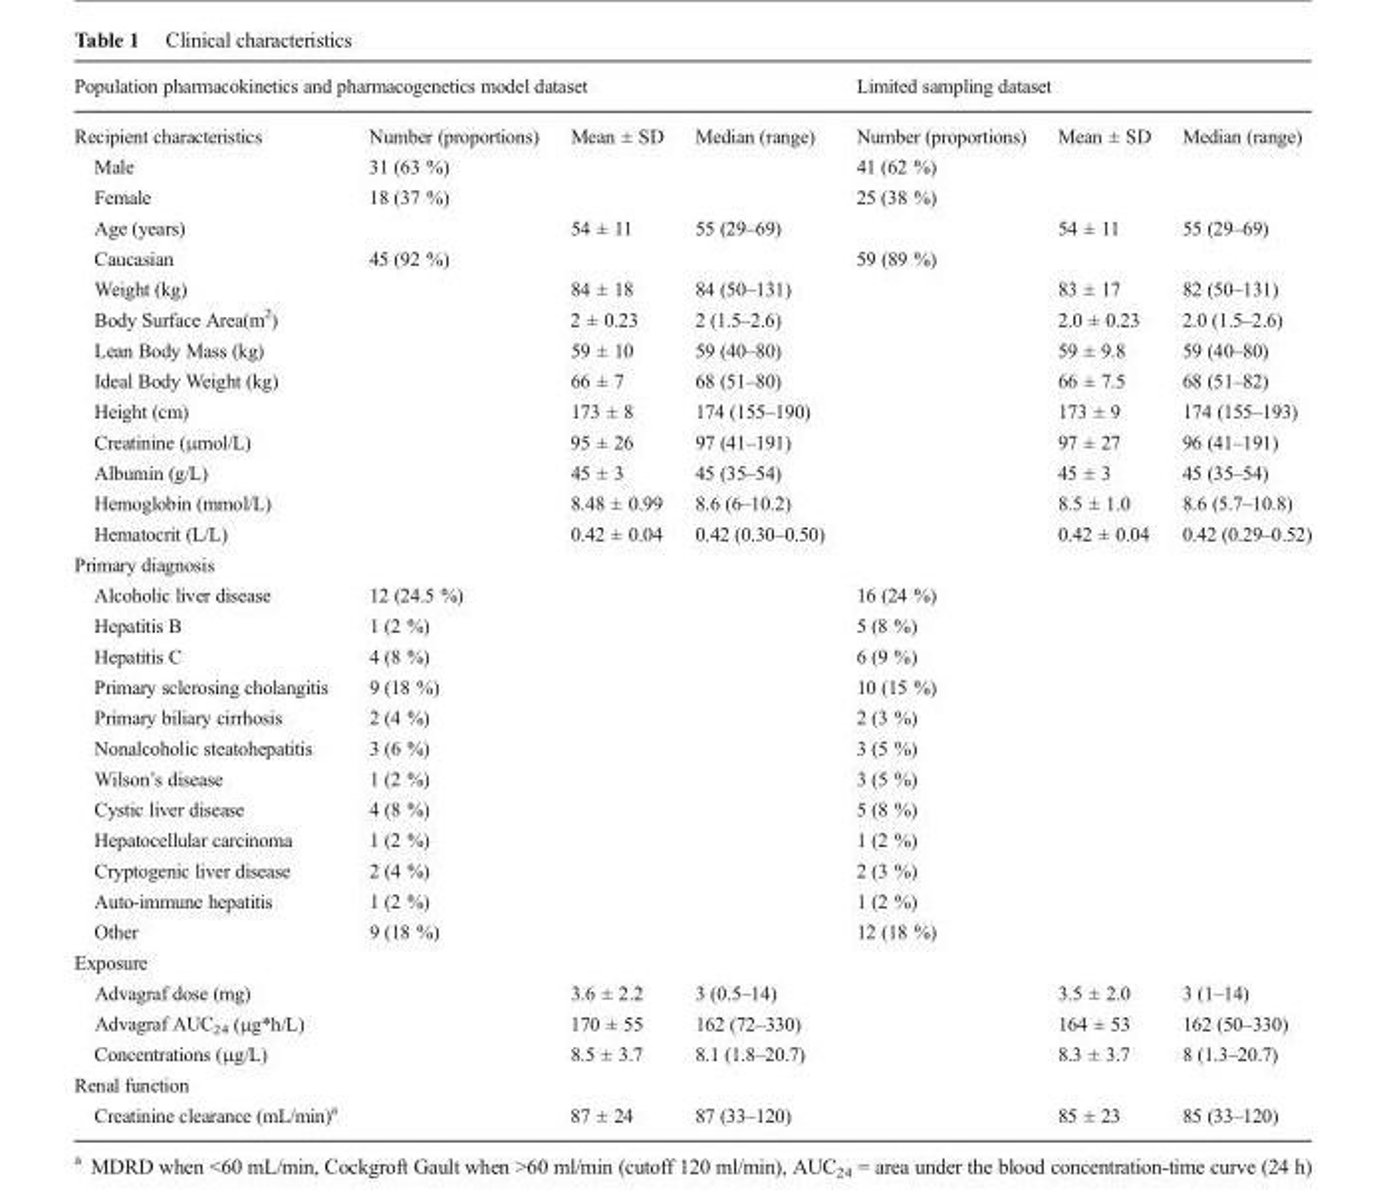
<table><thead><tr><td colspan="4">Population pharmacokinetics and pharmacogenetics model dataset</td><td colspan="3">Limited sampling dataset</td></tr><tr><td>Recipient characteristics</td><td>Number (proportions)</td><td>Mean ± SD</td><td>Median (range)</td><td>Number (proportions)</td><td>Mean ± SD</td><td>Median (range)</td></tr></thead><tbody><tr><td>Male</td><td>31 (63 %)</td><td></td><td></td><td>41 (62 %)</td><td></td><td></td></tr><tr><td>Female</td><td>18 (37 %)</td><td></td><td></td><td>25 (38 %)</td><td></td><td></td></tr><tr><td>Age (years)</td><td></td><td>54 ± 11</td><td>55 (29–69)</td><td></td><td>54 ± 11</td><td>55 (29–69)</td></tr><tr><td>Caucasian</td><td>45 (92 %)</td><td></td><td></td><td>59 (89 %)</td><td></td><td></td></tr><tr><td>Weight (kg)</td><td></td><td>84 ± 18</td><td>84 (50–131)</td><td></td><td>83 ± 17</td><td>82 (50–131)</td></tr><tr><td>Body Surface Area(m<sup>2</sup>)</td><td></td><td>2 ± 0.23</td><td>2 (1.5–2.6)</td><td></td><td>2.0 ± 0.23</td><td>2.0 (1.5–2.6)</td></tr><tr><td>Lean Body Mass (kg)</td><td></td><td>59 ± 10</td><td>59 (40–80)</td><td></td><td>59 ± 9.8</td><td>59 (40–80)</td></tr><tr><td>Ideal Body Weight (kg)</td><td></td><td>66 ± 7</td><td>68 (51–80)</td><td></td><td>66 ± 7.5</td><td>68 (51–82)</td></tr><tr><td>Height (cm)</td><td></td><td>173 ± 8</td><td>174 (155–190)</td><td></td><td>173 ± 9</td><td>174 (155–193)</td></tr><tr><td>Creatinine (μmol/L)</td><td></td><td>95 ± 26</td><td>97 (41–191)</td><td></td><td>97 ± 27</td><td>96 (41–191)</td></tr><tr><td>Albumin (g/L)</td><td></td><td>45 ± 3</td><td>45 (35–54)</td><td></td><td>45 ± 3</td><td>45 (35–54)</td></tr><tr><td>Hemoglobin (mmol/L)</td><td></td><td>8.48 ± 0.99</td><td>8.6 (6–10.2)</td><td></td><td>8.5 ± 1.0</td><td>8.6 (5.7–10.8)</td></tr><tr><td>Hematocrit (L/L)</td><td></td><td>0.42 ± 0.04</td><td>0.42 (0.30–0.50)</td><td></td><td>0.42 ± 0.04</td><td>0.42 (0.29–0.52)</td></tr><tr><td colspan="7">Primary diagnosis</td></tr><tr><td>Alcoholic liver disease</td><td>12 (24.5 %)</td><td></td><td></td><td>16 (24 %)</td><td></td><td></td></tr><tr><td>Hepatitis B</td><td>1 (2 %)</td><td></td><td></td><td>5 (8 %)</td><td></td><td></td></tr><tr><td>Hepatitis C</td><td>4 (8 %)</td><td></td><td></td><td>6 (9 %)</td><td></td><td></td></tr><tr><td>Primary sclerosing cholangitis</td><td>9 (18 %)</td><td></td><td></td><td>10 (15 %)</td><td></td><td></td></tr><tr><td>Primary biliary cirrhosis</td><td>2 (4 %)</td><td></td><td></td><td>2 (3 %)</td><td></td><td></td></tr><tr><td>Nonalcoholic steatohepatitis</td><td>3 (6 %)</td><td></td><td></td><td>3 (5 %)</td><td></td><td></td></tr><tr><td>Wilson’s disease</td><td>1 (2 %)</td><td></td><td></td><td>3 (5 %)</td><td></td><td></td></tr><tr><td>Cystic liver disease</td><td>4 (8 %)</td><td></td><td></td><td>5 (8 %)</td><td></td><td></td></tr><tr><td>Hepatocellular carcinoma</td><td>1 (2 %)</td><td></td><td></td><td>1 (2 %)</td><td></td><td></td></tr><tr><td>Cryptogenic liver disease</td><td>2 (4 %)</td><td></td><td></td><td>2 (3 %)</td><td></td><td></td></tr><tr><td>Auto-immune hepatitis</td><td>1 (2 %)</td><td></td><td></td><td>1 (2 %)</td><td></td><td></td></tr><tr><td>Other</td><td>9 (18 %)</td><td></td><td></td><td>12 (18 %)</td><td></td><td></td></tr><tr><td colspan="7">Exposure</td></tr><tr><td>Advagraf dose (mg)</td><td></td><td>3.6 ± 2.2</td><td>3 (0.5–14)</td><td></td><td>3.5 ± 2.0</td><td>3 (1–14)</td></tr><tr><td>Advagraf AUC<sub>24</sub> (μg*h/L)</td><td></td><td>170 ± 55</td><td>162 (72–330)</td><td></td><td>164 ± 53</td><td>162 (50–330)</td></tr><tr><td>Concentrations (μg/L)</td><td></td><td>8.5 ± 3.7</td><td>8.1 (1.8–20.7)</td><td></td><td>8.3 ± 3.7</td><td>8 (1.3–20.7)</td></tr><tr><td colspan="7">Renal function</td></tr><tr><td>Creatinine clearance (mL/min)<sup>a</sup></td><td></td><td>87 ± 24</td><td>87 (33–120)</td><td></td><td>85 ± 23</td><td>85 (33–120)</td></tr></tbody></table>